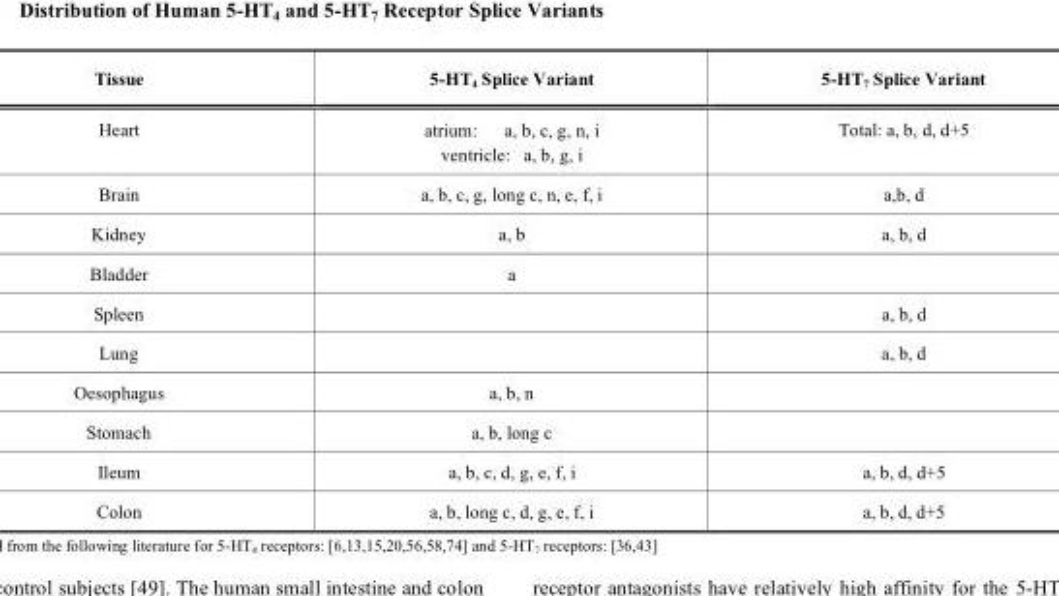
<table><thead><tr><td>Tissue</td><td>5-HT<sub>4</sub> Splice Variant</td><td>5-HT<sub>7</sub> Splice Variant</td></tr></thead><tbody><tr><td>Heart</td><td>atrium: a, b, c, g, n, i ventricle: a, b, g, i</td><td>Total: a, b, d, d+5</td></tr><tr><td>Brain</td><td>a, b, c, g, long c, n, e, f, i</td><td>a,b, d</td></tr><tr><td>Kidney</td><td>a, b</td><td>a, b, d</td></tr><tr><td>Bladder</td><td>a</td><td></td></tr><tr><td>Spleen</td><td></td><td>a, b, d</td></tr><tr><td>Lung</td><td></td><td>a, b, d</td></tr><tr><td>Oesophagus</td><td>a, b, n</td><td></td></tr><tr><td>Stomach</td><td>a, b, long c</td><td></td></tr><tr><td>Ileum</td><td>a, b, c, d, g, e, f, i</td><td>a, b, d, d+5</td></tr><tr><td>Colon</td><td>a, b, long c, d, g, e, f, i</td><td>a, b, d, d+5</td></tr></tbody></table>